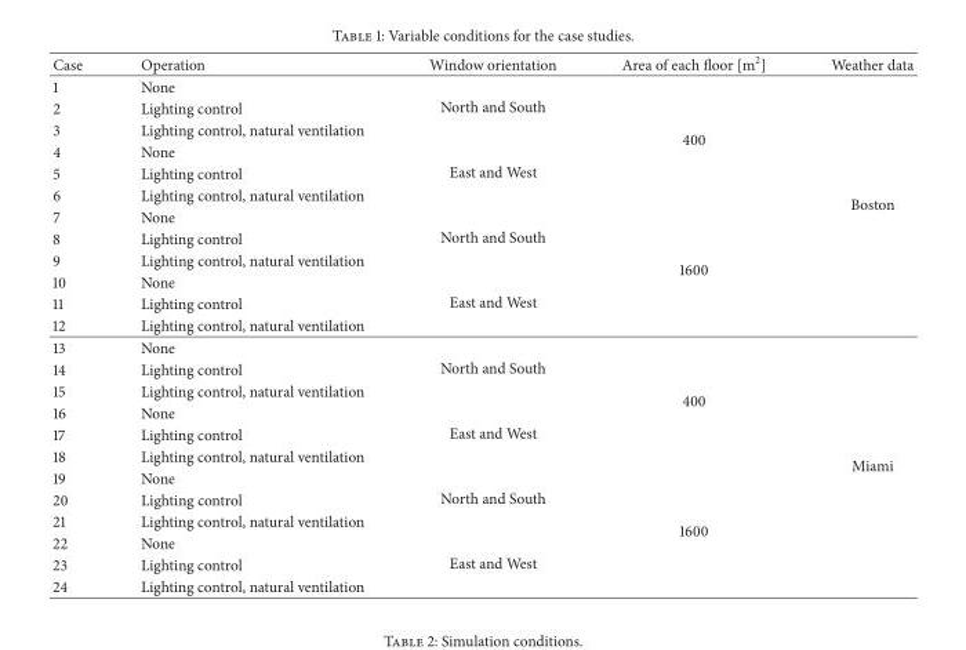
<table><thead><tr><td>Case</td><td>Operation</td><td>Window orientation</td><td>Area of each floor [m<sup>2</sup>]</td><td>Weather data</td></tr></thead><tbody><tr><td>1</td><td>None</td><td rowspan="3">North and South</td><td rowspan="6">400</td><td rowspan="12">Boston</td></tr><tr><td>2</td><td>Lighting control</td></tr><tr><td>3</td><td>Lighting control, natural ventilation</td></tr><tr><td>4</td><td>None</td><td rowspan="3">East and West</td></tr><tr><td>5</td><td>Lighting control</td></tr><tr><td>6</td><td>Lighting control, natural ventilation</td></tr><tr><td>7</td><td>None</td><td rowspan="3">North and South</td><td rowspan="6">1600</td></tr><tr><td>8</td><td>Lighting control</td></tr><tr><td>9</td><td>Lighting control, natural ventilation</td></tr><tr><td>10</td><td>None</td><td rowspan="3">East and West</td></tr><tr><td>11</td><td>Lighting control</td></tr><tr><td>12</td><td>Lighting control, natural ventilation</td></tr><tr><td>13</td><td>None</td><td rowspan="3">North and South</td><td rowspan="6">400</td><td rowspan="12">Miami</td></tr><tr><td>14</td><td>Lighting control</td></tr><tr><td>15</td><td>Lighting control, natural ventilation</td></tr><tr><td>16</td><td>None</td><td rowspan="3">East and West</td></tr><tr><td>17</td><td>Lighting control</td></tr><tr><td>18</td><td>Lighting control, natural ventilation</td></tr><tr><td>19</td><td>None</td><td rowspan="3">North and South</td><td rowspan="6">1600</td></tr><tr><td>20</td><td>Lighting control</td></tr><tr><td>21</td><td>Lighting control, natural ventilation</td></tr><tr><td>22</td><td>None</td><td rowspan="3">East and West</td></tr><tr><td>23</td><td>Lighting control</td></tr><tr><td>24</td><td>Lighting control, natural ventilation</td></tr></tbody></table>